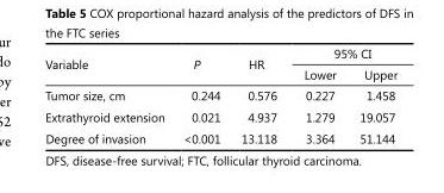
<table><thead><tr><td rowspan="2">Variable</td><td rowspan="2">P</td><td rowspan="2">HR</td><td colspan="2">95% CI</td></tr><tr><td>Lower</td><td>Upper</td></tr></thead><tbody><tr><td>Tumor size, cm</td><td>0.244</td><td>0.576</td><td>0.227</td><td>1.458</td></tr><tr><td>Extrathyroid extension</td><td>0.021</td><td>4.937</td><td>1.279</td><td>19.057</td></tr><tr><td>Degree of invasion</td><td>&lt;0.001</td><td>13.118</td><td>3.364</td><td>51.144</td></tr></tbody></table>